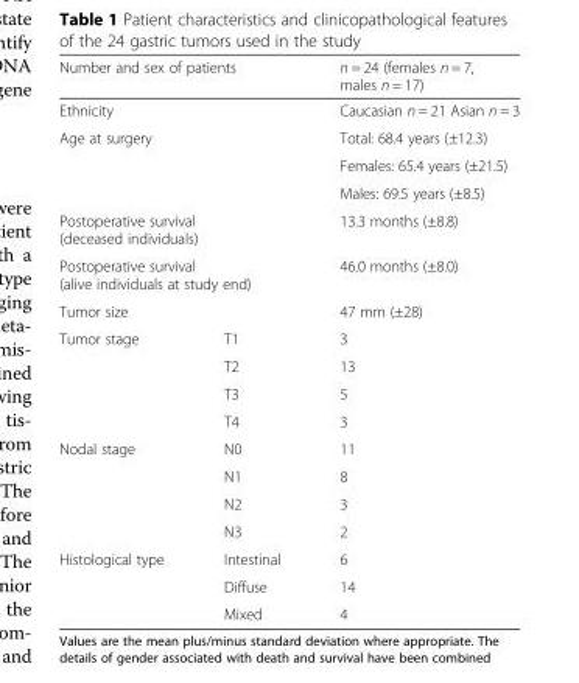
<table><thead><tr><td colspan="2">Number and sex of patients</td><td>n = 24 (females n = 7, males n = 17)</td></tr></thead><tbody><tr><td colspan="2">Ethnicity</td><td>Caucasian n = 21 Asian n = 3</td></tr><tr><td rowspan="3" colspan="2">Age at surgery</td><td>Total: 68.4 years (±12.3)</td></tr><tr><td>Females: 65.4 years (±21.5)</td></tr><tr><td>Males: 69.5 years (±8.5)</td></tr><tr><td colspan="2">Postoperative survival (deceased individuals)</td><td>13.3 months (±8.8)</td></tr><tr><td colspan="2">Postoperative survival (alive individuals at study end)</td><td>46.0 months (±8.0)</td></tr><tr><td colspan="2">Tumor size</td><td>47 mm (±28)</td></tr><tr><td rowspan="4">Tumor stage</td><td>T1</td><td>3</td></tr><tr><td>T2</td><td>13</td></tr><tr><td>T3</td><td>5</td></tr><tr><td>T4</td><td>3</td></tr><tr><td rowspan="4">Nodal stage</td><td>N0</td><td>11</td></tr><tr><td>N1</td><td>8</td></tr><tr><td>N2</td><td>3</td></tr><tr><td>N3</td><td>2</td></tr><tr><td rowspan="3">Histological type</td><td>Intestinal</td><td>6</td></tr><tr><td>Diffuse</td><td>14</td></tr><tr><td>Mixed</td><td>4</td></tr></tbody></table>